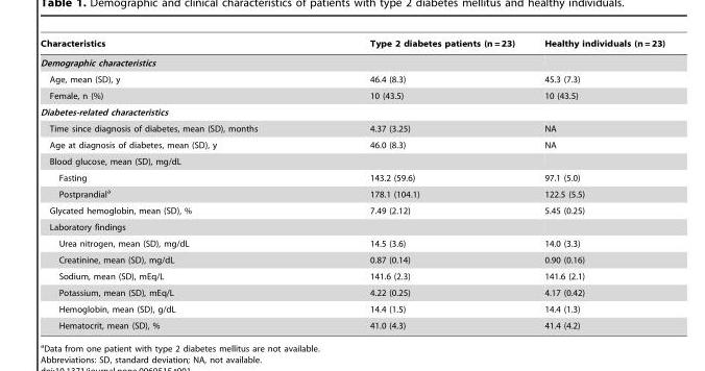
<table><thead><tr><td>Characteristics</td><td>Type 2 diabetes patients (n = 23)</td><td>Healthy individuals (n = 23)</td></tr></thead><tbody><tr><td colspan="3">Demographic characteristics</td></tr><tr><td>Age, mean (SD), y</td><td>46.4 (8.3)</td><td>45.3 (7.3)</td></tr><tr><td>Female, n (%)</td><td>10 (43.5)</td><td>10 (43.5)</td></tr><tr><td colspan="3">Diabetes-related characteristics</td></tr><tr><td>Time since diagnosis of diabetes, mean (SD), months</td><td>4.37 (3.25)</td><td>NA</td></tr><tr><td>Age at diagnosis of diabetes, mean (SD), y</td><td>46.0 (8.3)</td><td>NA</td></tr><tr><td colspan="3">Blood glucose, mean (SD), mg/dL</td></tr><tr><td>Fasting</td><td>143.2 (59.6)</td><td>97.1 (5.0)</td></tr><tr><td>Postprandial<sup>a</sup></td><td>178.1 (104.1)</td><td>122.5 (5.5)</td></tr><tr><td>Glycated hemoglobin, mean (SD), %</td><td>7.49 (2.12)</td><td>5.45 (0.25)</td></tr><tr><td colspan="3">Laboratory findings</td></tr><tr><td>Urea nitrogen, mean (SD), mg/dL</td><td>14.5 (3.6)</td><td>14.0 (3.3)</td></tr><tr><td>Creatinine, mean (SD), mg/dL</td><td>0.87 (0.14)</td><td>0.90 (0.16)</td></tr><tr><td>Sodium, mean (SD), mEq/L</td><td>141.6 (2.3)</td><td>141.6 (2.1)</td></tr><tr><td>Potassium, mean (SD), mEq/L</td><td>4.22 (0.25)</td><td>4.17 (0.42)</td></tr><tr><td>Hemoglobin, mean (SD), g/dL</td><td>14.4 (1.5)</td><td>14.4 (1.3)</td></tr><tr><td>Hematocrit, mean (SD), %</td><td>41.0 (4.3)</td><td>41.4 (4.2)</td></tr></tbody></table>